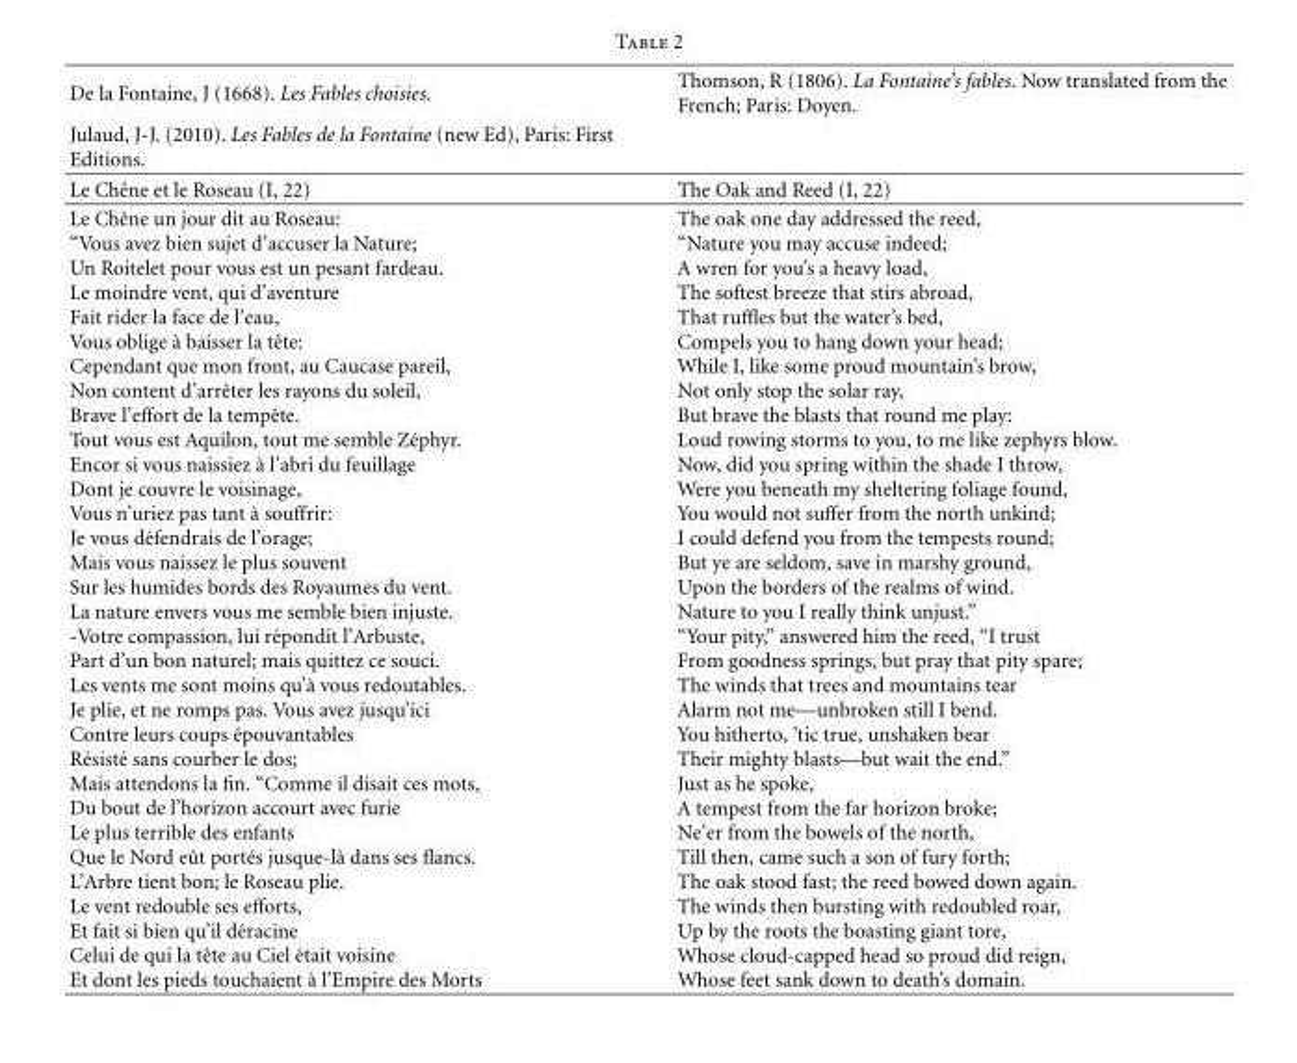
<table><tbody><tr><td>De la Fontaine, J (1668). Les Fables choisies.</td><td>Thomson, R (1806). La Fontaine’s fables. Now translated from the French; Paris: Doyen.</td></tr><tr><td colspan="2">Julaud, J-J. (2010). Les Fables de la Fontaine (new Ed), Paris: First Editions.</td></tr><tr><td>Le Chˆene et le Roseau (I, 22)</td><td>The Oak and Reed (I, 22)</td></tr><tr><td>Le Chˆene un jour dit au Roseau: “Vous avez bien sujet d’accuser la Nature; Un Roitelet pour vous est un pesant fardeau. Le moindre vent, qui d’aventure Fait rider la face de l’eau, Vous oblige `a baisser la tˆete: Cependant que mon front, au Caucase pareil, Non content d’arrˆeter les rayons du soleil, Brave l’effort de la tempˆete. Tout vous est Aquilon, tout me semble Z´ephyr. Encor si vous naissiez `a l’abri du feuillage Dont je couvre le voisinage, Vous n’uriez pas tant `a souffrir: Je vous d´efendrais de l’orage; Mais vous naissez le plus souvent Sur les humides bords des Royaumes du vent. La nature envers vous me semble bien injuste. -Votre compassion, lui r´epondit l’Arbuste, Part d’un bon naturel; mais quittez ce souci. Les vents me sont moins qu’`a vous redoutables. Je plie, et ne romps pas. Vous avez jusqu’ici Contre leurs coups ´epouvantables R´esist´e sans courber le dos; Mais attendons la fin. “Comme il disait ces mots, Du bout de l’horizon accourt avec furie Le plus terrible des enfants Que le Nord eˆut port´es jusque-l`a dans ses flancs. L’Arbre tient bon; le Roseau plie. Le vent redouble ses efforts, Et fait si bien qu’il d´eracine Celui de qui la tˆete au Ciel ´etait voisine Et dont les pieds touchaient `a l’Empire des Morts</td><td>The oak one day addressed the reed, “Nature you may accuse indeed; A wren for you’s a heavy load, The softest breeze that stirs abroad, That ruffles but the water’s bed, Compels you to hang down your head; While I, like some proud mountain’s brow, Not only stop the solar ray, But brave the blasts that round me play: Loud rowing storms to you, to me like zephyrs blow. Now, did you spring within the shade I throw, Were you beneath my sheltering foliage found, You would not suffer from the north unkind; I could defend you from the tempests round; But ye are seldom, save in marshy ground, Upon the borders of the realms of wind. Nature to you I really think unjust.” “Your pity,” answered him the reed, “I trust From goodness springs, but pray that pity spare; The winds that trees and mountains tear Alarm not me—unbroken still I bend. You hitherto, ’tic true, unshaken bear Their mighty blasts—but wait the end.” Just as he spoke, A tempest from the far horizon broke; Ne’er from the bowels of the north, Till then, came such a son of fury forth; The oak stood fast; the reed bowed down again. The winds then bursting with redoubled roar, Up by the roots the boasting giant tore, Whose cloud-capped head so proud did reign, Whose feet sank down to death’s domain.</td></tr></tbody></table>